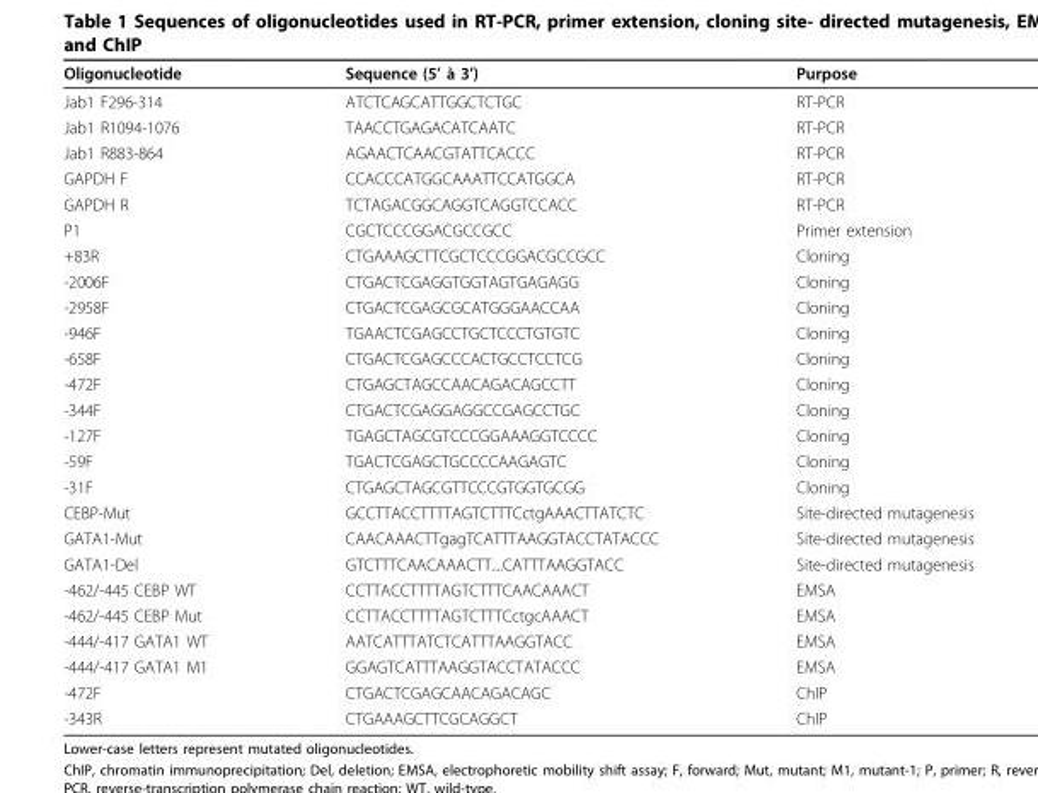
<table><thead><tr><td>Oligonucleotide</td><td>Sequence (5’ à 3’)</td><td>Purpose</td></tr></thead><tbody><tr><td>Jab1 F296-314</td><td>ATCTCAGCATTGGCTCTGC</td><td>RT-PCR</td></tr><tr><td>Jab1 R1094-1076</td><td>TAACCTGAGACATCAATC</td><td>RT-PCR</td></tr><tr><td>Jab1 R883-864</td><td>AGAACTCAACGTATTCACCC</td><td>RT-PCR</td></tr><tr><td>GAPDH F</td><td>CCACCCATGGCAAATTCCATGGCA</td><td>RT-PCR</td></tr><tr><td>GAPDH R</td><td>TCTAGACGGCAGGTCAGGTCCACC</td><td>RT-PCR</td></tr><tr><td>P1</td><td>CGCTCCCGGACGCCGCC</td><td>Primer extension</td></tr><tr><td>+83R</td><td>CTGAAAGCTTCGCTCCCGGACGCCGCC</td><td>Cloning</td></tr><tr><td>-2006F</td><td>CTGACTCGAGGTGGTAGTGAGAGG</td><td>Cloning</td></tr><tr><td>-2958F</td><td>CTGACTCGAGCGCATGGGAACCAA</td><td>Cloning</td></tr><tr><td>-946F</td><td>TGAACTCGAGCCTGCTCCCTGTGTC</td><td>Cloning</td></tr><tr><td>-658F</td><td>CTGACTCGAGCCCACTGCCTCCTCG</td><td>Cloning</td></tr><tr><td>-472F</td><td>CTGAGCTAGCCAACAGACAGCCTT</td><td>Cloning</td></tr><tr><td>-344F</td><td>CTGACTCGAGGAGGCCGAGCCTGC</td><td>Cloning</td></tr><tr><td>-127F</td><td>TGAGCTAGCGTCCCGGAAAGGTCCCC</td><td>Cloning</td></tr><tr><td>-59F</td><td>TGACTCGAGCTGCCCCAAGAGTC</td><td>Cloning</td></tr><tr><td>-31F</td><td>CTGAGCTAGCGTTCCCGTGGTGCGG</td><td>Cloning</td></tr><tr><td>CEBP-Mut</td><td>GCCTTACCTTTTAGTCTTTCctgAAACTTATCTC</td><td>Site-directed mutagenesis</td></tr><tr><td>GATA1-Mut</td><td>CAACAAACTTgagTCATTTAAGGTACCTATACCC</td><td>Site-directed mutagenesis</td></tr><tr><td>GATA1-Del</td><td>GTCTTTCAACAAACTT....CATTTAAGGTACC</td><td>Site-directed mutagenesis</td></tr><tr><td>-462/-445 CEBP WT</td><td>CCTTACCTTTTAGTCTTTCAACAAACT</td><td>EMSA</td></tr><tr><td>-462/-445 CEBP Mut</td><td>CCTTACCTTTTAGTCTTTCctgcAAACT</td><td>EMSA</td></tr><tr><td>-444/-417 GATA1 WT</td><td>AATCATTTATCTCATTTAAGGTACC</td><td>EMSA</td></tr><tr><td>-444/-417 GATA1 M1</td><td>GGAGTCATTTAAGGTACCTATACCC</td><td>EMSA</td></tr><tr><td>-472F</td><td>CTGACTCGAGCAACAGACAGC</td><td>ChIP</td></tr><tr><td>-343R</td><td>CTGAAAGCTTCGCAGGCT</td><td>ChIP</td></tr></tbody></table>